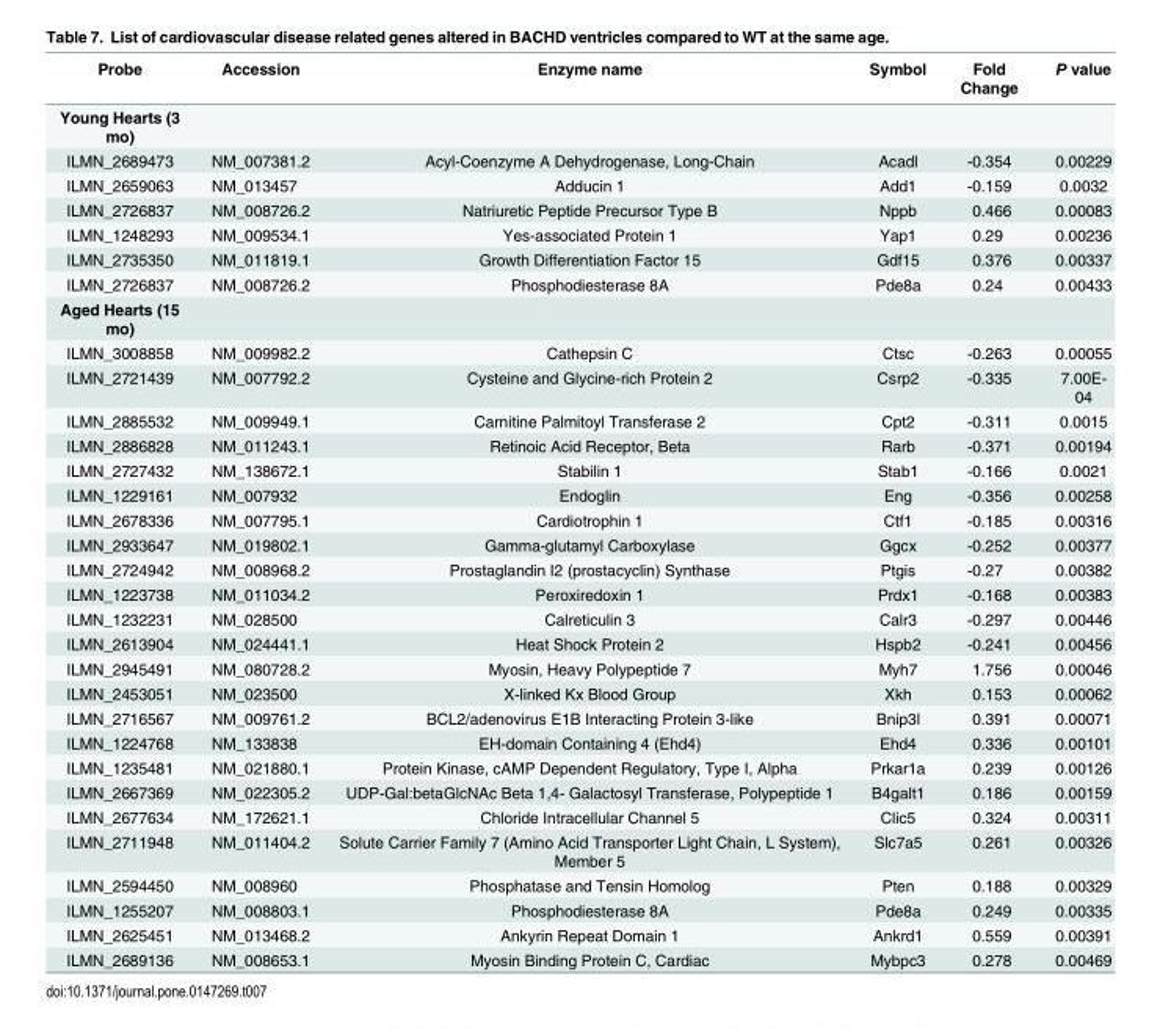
<table><thead><tr><td>Probe</td><td>Accession</td><td>Enzyme name</td><td>Symbol</td><td>Fold Change</td><td>P value</td></tr></thead><tbody><tr><td colspan="6">Young Hearts (3 mo)</td></tr><tr><td>ILMN_2689473</td><td>NM_007381.2</td><td>Acyl-Coenzyme A Dehydrogenase, Long-Chain</td><td>Acadl</td><td>-0.354</td><td>0.00229</td></tr><tr><td>ILMN_2659063</td><td>NM_013457</td><td>Adducin 1</td><td>Add1</td><td>-0.159</td><td>0.0032</td></tr><tr><td>ILMN_2726837</td><td>NM_008726.2</td><td>Natriuretic Peptide Precursor Type B</td><td>Nppb</td><td>0.466</td><td>0.00083</td></tr><tr><td>ILMN_1248293</td><td>NM_009534.1</td><td>Yes-associated Protein 1</td><td>Yap1</td><td>0.29</td><td>0.00236</td></tr><tr><td>ILMN_2735350</td><td>NM_011819.1</td><td>Growth Differentiation Factor 15</td><td>Gdf15</td><td>0.376</td><td>0.00337</td></tr><tr><td>ILMN_2726837</td><td>NM_008726.2</td><td>Phosphodiesterase 8A</td><td>Pde8a</td><td>0.24</td><td>0.00433</td></tr><tr><td colspan="6">Aged Hearts (15 mo)</td></tr><tr><td>ILMN_3008858</td><td>NM_009982.2</td><td>Cathepsin C</td><td>Ctsc</td><td>-0.263</td><td>0.00055</td></tr><tr><td>ILMN_2721439</td><td>NM_007792.2</td><td>Cysteine and Glycine-rich Protein 2</td><td>Csrp2</td><td>-0.335</td><td>7.00E- 04</td></tr><tr><td>ILMN_2885532</td><td>NM_009949.1</td><td>Carnitine Palmitoyl Transferase 2</td><td>Cpt2</td><td>-0.311</td><td>0.0015</td></tr><tr><td>ILMN_2886828</td><td>NM_011243.1</td><td>Retinoic Acid Receptor, Beta</td><td>Rarb</td><td>-0.371</td><td>0.00194</td></tr><tr><td>ILMN_2727432</td><td>NM_138672.1</td><td>Stabilin 1</td><td>Stab1</td><td>-0.166</td><td>0.0021</td></tr><tr><td>ILMN_1229161</td><td>NM_007932</td><td>Endoglin</td><td>Eng</td><td>-0.356</td><td>0.00258</td></tr><tr><td>ILMN_2678336</td><td>NM_007795.1</td><td>Cardiotrophin 1</td><td>Ctf1</td><td>-0.185</td><td>0.00316</td></tr><tr><td>ILMN_2933647</td><td>NM_019802.1</td><td>Gamma-glutamyl Carboxylase</td><td>Ggcx</td><td>-0.252</td><td>0.00377</td></tr><tr><td>ILMN_2724942</td><td>NM_008968.2</td><td>Prostaglandin I2 (prostacyclin) Synthase</td><td>Ptgis</td><td>-0.27</td><td>0.00382</td></tr><tr><td>ILMN_1223738</td><td>NM_011034.2</td><td>Peroxiredoxin 1</td><td>Prdx1</td><td>-0.168</td><td>0.00383</td></tr><tr><td>ILMN_1232231</td><td>NM_028500</td><td>Calreticulin 3</td><td>Calr3</td><td>-0.297</td><td>0.00446</td></tr><tr><td>ILMN_2613904</td><td>NM_024441.1</td><td>Heat Shock Protein 2</td><td>Hspb2</td><td>-0.241</td><td>0.00456</td></tr><tr><td>ILMN_2945491</td><td>NM_080728.2</td><td>Myosin, Heavy Polypeptide 7</td><td>Myh7</td><td>1.756</td><td>0.00046</td></tr><tr><td>ILMN_2453051</td><td>NM_023500</td><td>X-linked Kx Blood Group</td><td>Xkh</td><td>0.153</td><td>0.00062</td></tr><tr><td>ILMN_2716567</td><td>NM_009761.2</td><td>BCL2/adenovirus E1B Interacting Protein 3-like</td><td>Bnip3l</td><td>0.391</td><td>0.00071</td></tr><tr><td>ILMN_1224768</td><td>NM_133838</td><td>EH-domain Containing 4 (Ehd4)</td><td>Ehd4</td><td>0.336</td><td>0.00101</td></tr><tr><td>ILMN_1235481</td><td>NM_021880.1</td><td>Protein Kinase, cAMP Dependent Regulatory, Type I, Alpha</td><td>Prkar1a</td><td>0.239</td><td>0.00126</td></tr><tr><td>ILMN_2667369</td><td>NM_022305.2</td><td>UDP-Gal:betaGlcNAc Beta 1,4- Galactosyl Transferase, Polypeptide 1</td><td>B4galt1</td><td>0.186</td><td>0.00159</td></tr><tr><td>ILMN_2677634</td><td>NM_172621.1</td><td>Chloride Intracellular Channel 5</td><td>Clic5</td><td>0.324</td><td>0.00311</td></tr><tr><td>ILMN_2711948</td><td>NM_011404.2</td><td>Solute Carrier Family 7 (Amino Acid Transporter Light Chain, L System), Member 5</td><td>Slc7a5</td><td>0.261</td><td>0.00326</td></tr><tr><td>ILMN_2594450</td><td>NM_008960</td><td>Phosphatase and Tensin Homolog</td><td>Pten</td><td>0.188</td><td>0.00329</td></tr><tr><td>ILMN_1255207</td><td>NM_008803.1</td><td>Phosphodiesterase 8A</td><td>Pde8a</td><td>0.249</td><td>0.00335</td></tr><tr><td>ILMN_2625451</td><td>NM_013468.2</td><td>Ankyrin Repeat Domain 1</td><td>Ankrd1</td><td>0.559</td><td>0.00391</td></tr><tr><td>ILMN_2689136</td><td>NM_008653.1</td><td>Myosin Binding Protein C, Cardiac</td><td>Mybpc3</td><td>0.278</td><td>0.00469</td></tr></tbody></table>